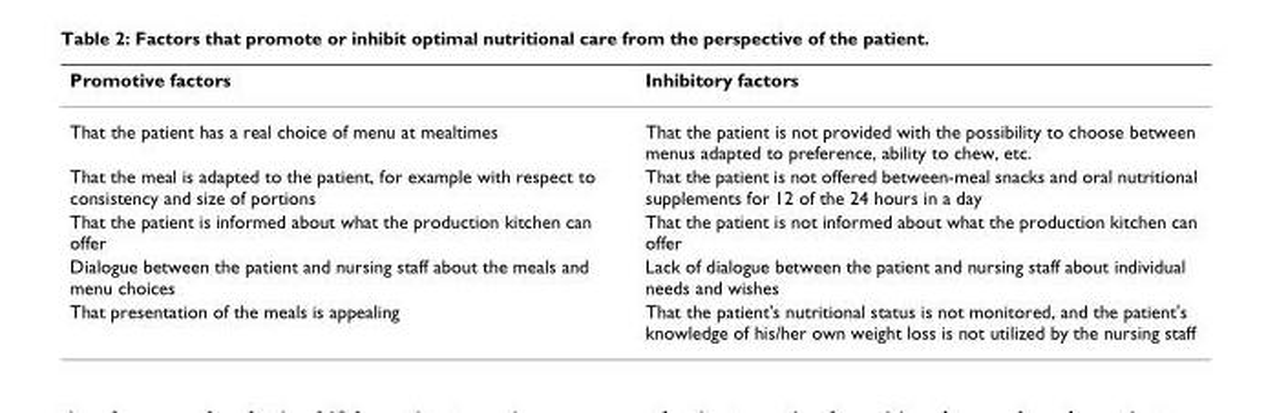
<table><thead><tr><td>Promotive factors</td><td>Inhibitory factors</td></tr></thead><tbody><tr><td>That the patient has a real choice of menu at mealtimes</td><td>That the patient is not provided with the possibility to choose between menus adapted to preference, ability to chew, etc.</td></tr><tr><td>That the meal is adapted to the patient, for example with respect to consistency and size of portions</td><td>That the patient is not offered between-meal snacks and oral nutritional supplements for 12 of the 24 hours in a day</td></tr><tr><td>That the patient is informed about what the production kitchen can offer</td><td>That the patient is not informed about what the production kitchen can offer</td></tr><tr><td>Dialogue between the patient and nursing staff about the meals and menu choices</td><td>Lack of dialogue between the patient and nursing staff about individual needs and wishes</td></tr><tr><td>That presentation of the meals is appealing</td><td>That the patient&#x27;s nutritional status is not monitored, and the patient&#x27;s knowledge of his/her own weight loss is not utilized by the nursing staff</td></tr></tbody></table>